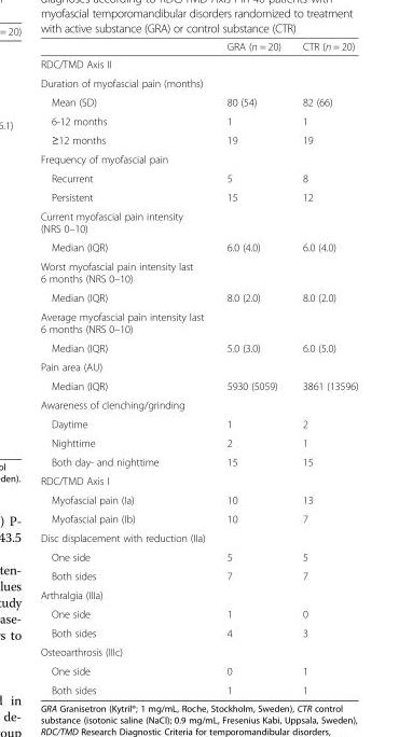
<table><thead><tr><td></td><td>GRA (n = 20)</td><td>CTR (n = 20)</td></tr></thead><tbody><tr><td colspan="3">RDC/TMD Axis II</td></tr><tr><td colspan="3">Duration of myofascial pain (months)</td></tr><tr><td>Mean (SD)</td><td>80 (54)</td><td>82 (66)</td></tr><tr><td>6-12 months</td><td>1</td><td>1</td></tr><tr><td>≥12 months</td><td>19</td><td>19</td></tr><tr><td colspan="3">Frequency of myofascial pain</td></tr><tr><td>Recurrent</td><td>5</td><td>8</td></tr><tr><td>Persistent</td><td>15</td><td>12</td></tr><tr><td colspan="3">Current myofascial pain intensity (NRS 0–10)</td></tr><tr><td>Median (IQR)</td><td>6.0 (4.0)</td><td>6.0 (4.0)</td></tr><tr><td colspan="3">Worst myofascial pain intensity last 6 months (NRS 0–10)</td></tr><tr><td>Median (IQR)</td><td>8.0 (2.0)</td><td>8.0 (2.0)</td></tr><tr><td colspan="3">Average myofascial pain intensity last 6 months (NRS 0–10)</td></tr><tr><td>Median (IQR)</td><td>5.0 (3.0)</td><td>6.0 (5.0)</td></tr><tr><td colspan="3">Pain area (AU)</td></tr><tr><td>Median (IQR)</td><td>5930 (5059)</td><td>3861 (13596)</td></tr><tr><td colspan="3">Awareness of clenching/grinding</td></tr><tr><td>Daytime</td><td>1</td><td>2</td></tr><tr><td>Nighttime</td><td>2</td><td>1</td></tr><tr><td>Both day- and nighttime</td><td>15</td><td>15</td></tr><tr><td colspan="3">RDC/TMD Axis I</td></tr><tr><td>Myofascial pain (Ia)</td><td>10</td><td>13</td></tr><tr><td>Myofascial pain (Ib)</td><td>10</td><td>7</td></tr><tr><td colspan="3">Disc displacement with reduction (IIa)</td></tr><tr><td>One side</td><td>5</td><td>5</td></tr><tr><td>Both sides</td><td>7</td><td>7</td></tr><tr><td colspan="3">Arthralgia (IIIa)</td></tr><tr><td>One side</td><td>1</td><td>0</td></tr><tr><td>Both sides</td><td>4</td><td>3</td></tr><tr><td colspan="3">Osteoarthrosis (IIIc)</td></tr><tr><td>One side</td><td>0</td><td>1</td></tr><tr><td>Both sides</td><td>1</td><td>1</td></tr></tbody></table>